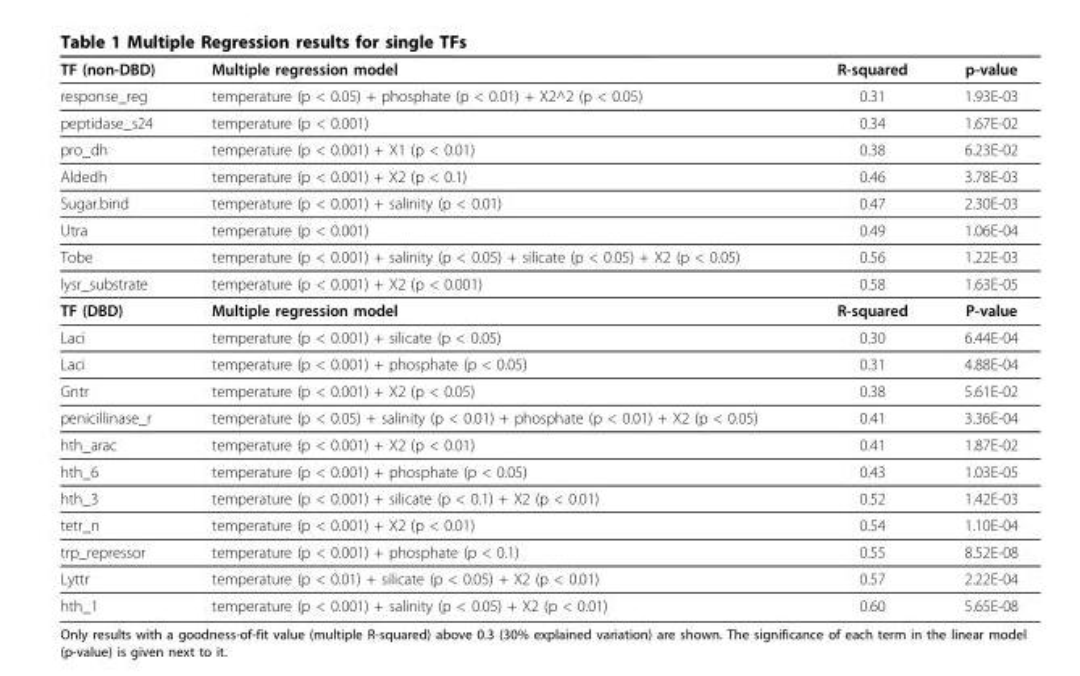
<table><thead><tr><td>TF (non-DBD)</td><td>Multiple regression model</td><td>R-squared</td><td>p-value</td></tr></thead><tbody><tr><td>response_reg</td><td>temperature (p &lt; 0.05) + phosphate (p &lt; 0.01) + X2^2 (p &lt; 0.05)</td><td>0.31</td><td>1.93E-03</td></tr><tr><td>peptidase_s24</td><td>temperature (p &lt; 0.001)</td><td>0.34</td><td>1.67E-02</td></tr><tr><td>pro_dh</td><td>temperature (p &lt; 0.001) + X1 (p &lt; 0.01)</td><td>0.38</td><td>6.23E-02</td></tr><tr><td>Aldedh</td><td>temperature (p &lt; 0.001) + X2 (p &lt; 0.1)</td><td>0.46</td><td>3.78E-03</td></tr><tr><td>Sugar.bind</td><td>temperature (p &lt; 0.001) + salinity (p &lt; 0.01)</td><td>0.47</td><td>2.30E-03</td></tr><tr><td>Utra</td><td>temperature (p &lt; 0.001)</td><td>0.49</td><td>1.06E-04</td></tr><tr><td>Tobe</td><td>temperature (p &lt; 0.001) + salinity (p &lt; 0.05) + silicate (p &lt; 0.05) + X2 (p &lt; 0.05)</td><td>0.56</td><td>1.22E-03</td></tr><tr><td>lysr_substrate</td><td>temperature (p &lt; 0.001) + X2 (p &lt; 0.001)</td><td>0.58</td><td>1.63E-05</td></tr><tr><td>TF (DBD)</td><td>Multiple regression model</td><td>R-squared</td><td>P-value</td></tr><tr><td>Laci</td><td>temperature (p &lt; 0.001) + silicate (p &lt; 0.05)</td><td>0.30</td><td>6.44E-04</td></tr><tr><td>Laci</td><td>temperature (p &lt; 0.001) + phosphate (p &lt; 0.05)</td><td>0.31</td><td>4.88E-04</td></tr><tr><td>Gntr</td><td>temperature (p &lt; 0.001) + X2 (p &lt; 0.05)</td><td>0.38</td><td>5.61E-02</td></tr><tr><td>penicillinase_r</td><td>temperature (p &lt; 0.05) + salinity (p &lt; 0.01) + phosphate (p &lt; 0.01) + X2 (p &lt; 0.05)</td><td>0.41</td><td>3.36E-04</td></tr><tr><td>hth_arac</td><td>temperature (p &lt; 0.001) + X2 (p &lt; 0.01)</td><td>0.41</td><td>1.87E-02</td></tr><tr><td>hth_6</td><td>temperature (p &lt; 0.001) + phosphate (p &lt; 0.05)</td><td>0.43</td><td>1.03E-05</td></tr><tr><td>hth_3</td><td>temperature (p &lt; 0.001) + silicate (p &lt; 0.1) + X2 (p &lt; 0.01)</td><td>0.52</td><td>1.42E-03</td></tr><tr><td>tetr_n</td><td>temperature (p &lt; 0.001) + X2 (p &lt; 0.01)</td><td>0.54</td><td>1.10E-04</td></tr><tr><td>trp_repressor</td><td>temperature (p &lt; 0.001) + phosphate (p &lt; 0.1)</td><td>0.55</td><td>8.52E-08</td></tr><tr><td>Lyttr</td><td>temperature (p &lt; 0.01) + silicate (p &lt; 0.05) + X2 (p &lt; 0.01)</td><td>0.57</td><td>2.22E-04</td></tr><tr><td>hth_1</td><td>temperature (p &lt; 0.001) + salinity (p &lt; 0.05) + X2 (p &lt; 0.01)</td><td>0.60</td><td>5.65E-08</td></tr></tbody></table>